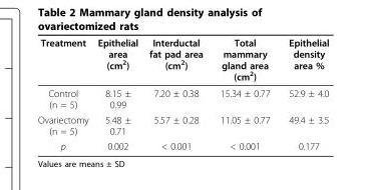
<table><thead><tr><td>Treatment</td><td>Epithelial area (cm<sup>2</sup>)</td><td>Interductal fat pad area (cm<sup>2</sup>)</td><td>Total mammary gland area (cm<sup>2</sup>)</td><td>Epithelial density area %</td></tr></thead><tbody><tr><td>Control (n = 5)</td><td>8.15 ± 0.99</td><td>7.20 ± 0.38</td><td>15.34 ± 0.77</td><td>52.9 ± 4.0</td></tr><tr><td>Ovariectomy (n = 5)</td><td>5.48 ± 0.71</td><td>5.57 ± 0.28</td><td>11.05 ± 0.77</td><td>49.4 ± 3.5</td></tr><tr><td>p</td><td>0.002</td><td>&lt; 0.001</td><td>&lt; 0.001</td><td>0.177</td></tr></tbody></table>